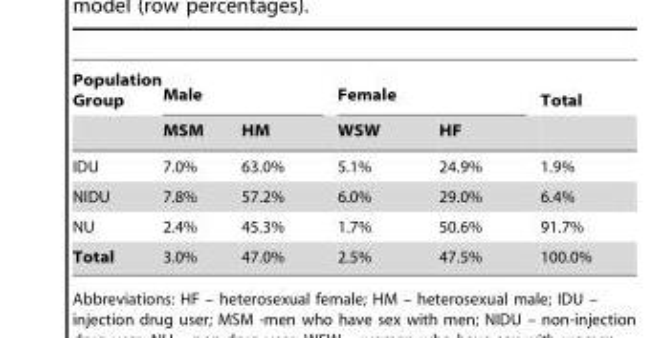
<table><thead><tr><td rowspan="2">Population Group</td><td colspan="2">Male</td><td colspan="2">Female</td><td rowspan="2">Total</td></tr><tr><td>MSM</td><td>HM</td><td>WSW</td><td>HF</td></tr></thead><tbody><tr><td>IDU</td><td>7.0%</td><td>63.0%</td><td>5.1%</td><td>24.9%</td><td>1.9%</td></tr><tr><td>NIDU</td><td>7.8%</td><td>57.2%</td><td>6.0%</td><td>29.0%</td><td>6.4%</td></tr><tr><td>NU</td><td>2.4%</td><td>45.3%</td><td>1.7%</td><td>50.6%</td><td>91.7%</td></tr><tr><td>Total</td><td>3.0%</td><td>47.0%</td><td>2.5%</td><td>47.5%</td><td>100.0%</td></tr></tbody></table>